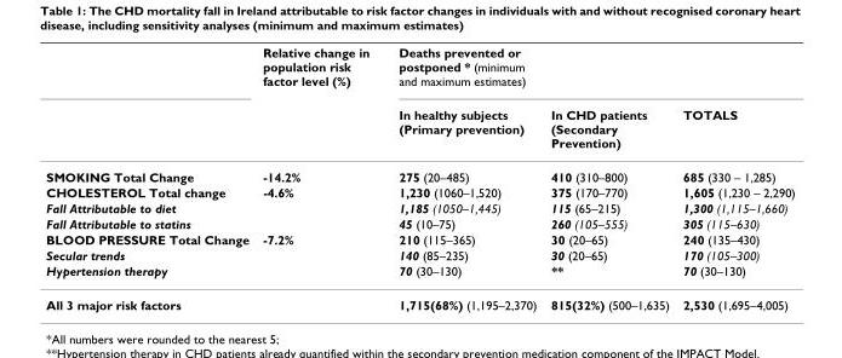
<table><thead><tr><td rowspan="2"></td><td rowspan="2">Relative change in population risk factor level (%)</td><td rowspan="2">Deaths prevented or postponed * (minimum and maximum estimates) In healthy subjects (Primary prevention)</td><td rowspan="2">In CHD patients (Secondary Prevention)</td><td rowspan="2">TOTALS</td></tr><tr></tr></thead><tbody><tr><td>SMOKING Total Change</td><td>-14.2%</td><td>275 (20–485)</td><td>410 (310–800)</td><td>685 (330 – 1,285)</td></tr><tr><td>CHOLESTEROL Total change</td><td>-4.6%</td><td>1,230 (1060–1,520)</td><td>375 (170–770)</td><td>1,605 (1,230 – 2,290)</td></tr><tr><td>Fall Attributable to diet</td><td></td><td>1,185 (1050–1,445)</td><td>115 (65–215)</td><td>1,300 (1,115–1,660)</td></tr><tr><td>Fall Attributable to statins</td><td></td><td>45 (10–75)</td><td>260 (105–555)</td><td>305 (115–630)</td></tr><tr><td>BLOOD PRESSURE Total Change</td><td>-7.2%</td><td>210 (115–365)</td><td>30 (20–65)</td><td>240 (135–430)</td></tr><tr><td>Secular trends</td><td></td><td>140 (85–235)</td><td>30 (20–65)</td><td>170 (105–300)</td></tr><tr><td>Hypertension therapy</td><td></td><td>70 (30–130)</td><td>**</td><td>70 (30–130)</td></tr><tr><td>All 3 major risk factors</td><td></td><td>1,715(68%) (1,195–2,370)</td><td>815(32%) (500–1,635)</td><td>2,530 (1,695–4,005)</td></tr></tbody></table>